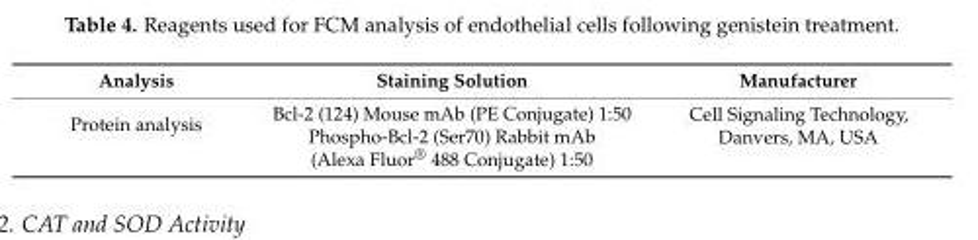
<table><thead><tr><td>Analysis</td><td>Staining Solution</td><td>Manufacturer</td></tr></thead><tbody><tr><td rowspan="2">Protein analysis</td><td>Bcl-2 (124) Mouse mAb (PE Conjugate) 1:50</td><td rowspan="2">Cell Signaling Technology, Danvers, MA, USA</td></tr><tr><td>Phospho-Bcl-2 (Ser70) Rabbit mAb (Alexa Fluor<sup>®</sup> 488 Conjugate) 1:50</td></tr></tbody></table>